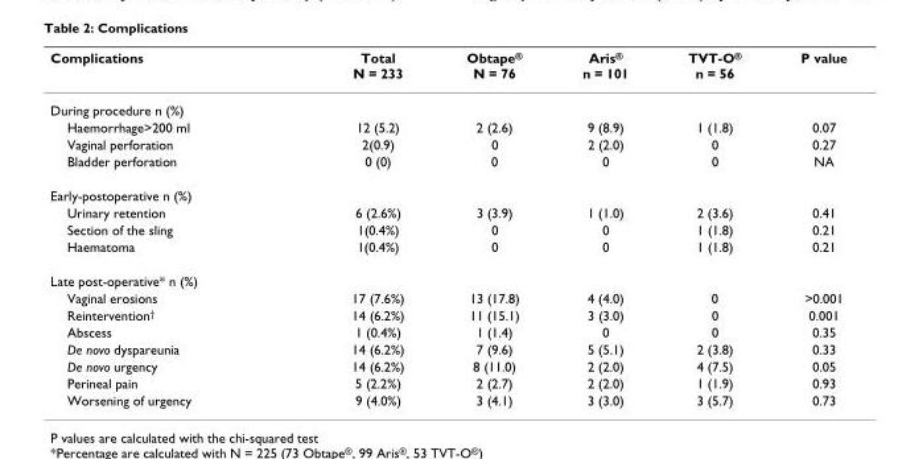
<table><thead><tr><td>Complications</td><td>Total N = 233</td><td>Obtape<sup>®</sup> N = 76</td><td>Aris<sup>®</sup> n = 101</td><td>TVT-O<sup>®</sup> n = 56</td><td>P value</td></tr></thead><tbody><tr><td colspan="6">During procedure n (%)</td></tr><tr><td>Haemorrhage&gt;200 ml</td><td>12 (5.2)</td><td>2 (2.6)</td><td>9 (8.9)</td><td>1 (1.8)</td><td>0.07</td></tr><tr><td>Vaginal perforation</td><td>2(0.9)</td><td>0</td><td>2 (2.0)</td><td>0</td><td>0.27</td></tr><tr><td>Bladder perforation</td><td>0 (0)</td><td>0</td><td>0</td><td>0</td><td>NA</td></tr><tr><td colspan="6">Early-postoperative n (%)</td></tr><tr><td>Urinary retention</td><td>6 (2.6%)</td><td>3 (3.9)</td><td>1 (1.0)</td><td>2 (3.6)</td><td>0.41</td></tr><tr><td>Section of the sling</td><td>1(0.4%)</td><td>0</td><td>0</td><td>1 (1.8)</td><td>0.21</td></tr><tr><td>Haematoma</td><td>1(0.4%)</td><td>0</td><td>0</td><td>1 (1.8)</td><td>0.21</td></tr><tr><td colspan="6">Late post-operative* n (%)</td></tr><tr><td>Vaginal erosions</td><td>17 (7.6%)</td><td>13 (17.8)</td><td>4 (4.0)</td><td>0</td><td>&gt;0.001</td></tr><tr><td>Reintervention<sup>†</sup></td><td>14 (6.2%)</td><td>11 (15.1)</td><td>3 (3.0)</td><td>0</td><td>0.001</td></tr><tr><td>Abscess</td><td>1 (0.4%)</td><td>1 (1.4)</td><td>0</td><td>0</td><td>0.35</td></tr><tr><td>De novo dyspareunia</td><td>14 (6.2%)</td><td>7 (9.6)</td><td>5 (5.1)</td><td>2 (3.8)</td><td>0.33</td></tr><tr><td>De novo urgency</td><td>14 (6.2%)</td><td>8 (11.0)</td><td>2 (2.0)</td><td>4 (7.5)</td><td>0.05</td></tr><tr><td>Perineal pain</td><td>5 (2.2%)</td><td>2 (2.7)</td><td>2 (2.0)</td><td>1 (1.9)</td><td>0.93</td></tr><tr><td>Worsening of urgency</td><td>9 (4.0%)</td><td>3 (4.1)</td><td>3 (3.0)</td><td>3 (5.7)</td><td>0.73</td></tr></tbody></table>